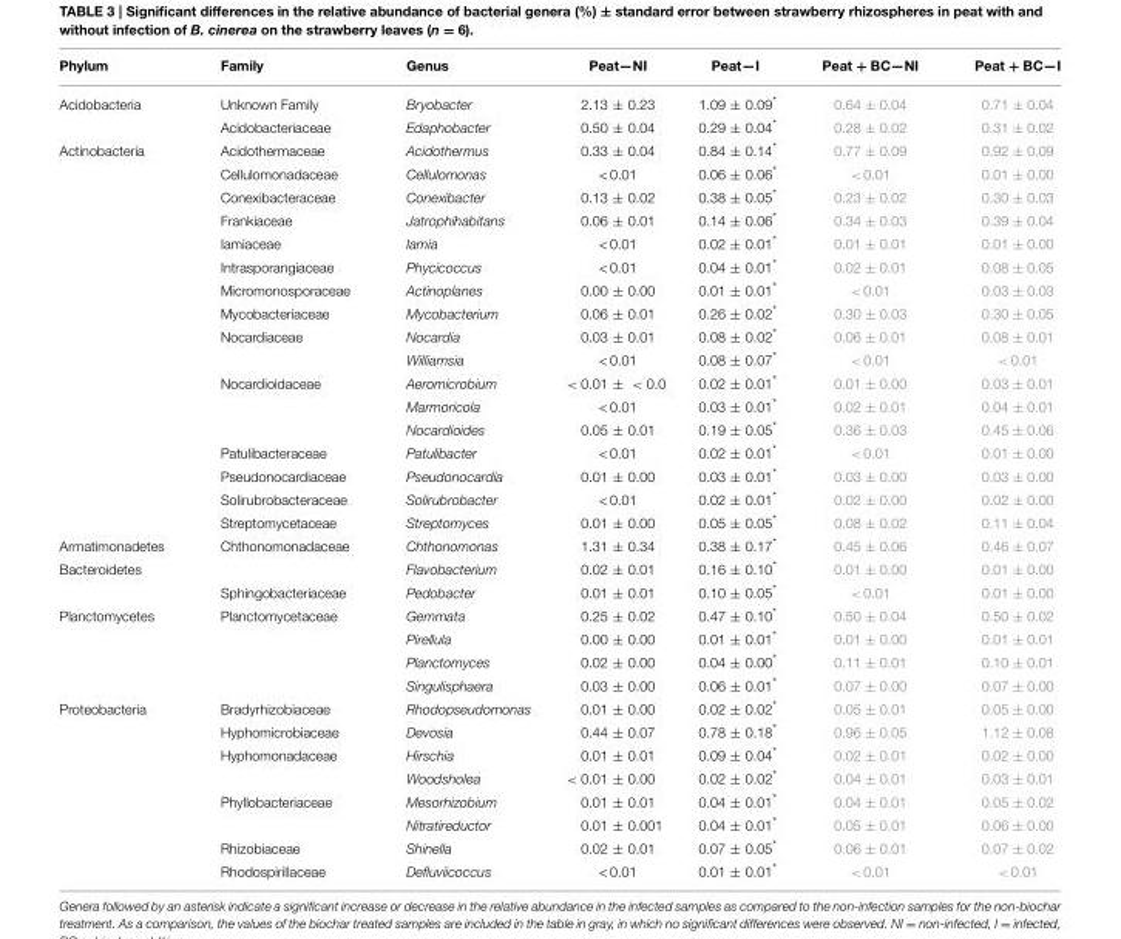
<table><thead><tr><td>Phylum</td><td>Family</td><td>Genus</td><td>Peat—NI</td><td>Peat—I</td><td>Peat + BC—NI</td><td>Peat + BC—I</td></tr></thead><tbody><tr><td rowspan="2">Acidobacteria</td><td>Unknown Family</td><td>Bryobacter</td><td>2.13 ± 0.23</td><td>1.09 ± 0.09*</td><td>0.64 ± 0.04</td><td>0.71 ± 0.04</td></tr><tr><td>Acidobacteriaceae</td><td>Edaphobacter</td><td>0.50 ± 0.04</td><td>0.29 ± 0.04*</td><td>0.28 ± 0.02</td><td>0.31 ± 0.02</td></tr><tr><td rowspan="17">Actinobacteria</td><td>Acidothermaceae</td><td>Acidothermus</td><td>0.33 ± 0.04</td><td>0.84 ± 0.14*</td><td>0.77 ± 0.09</td><td>0.92 ± 0.09</td></tr><tr><td>Cellulomonadaceae</td><td>Cellulomonas</td><td>&lt; 0.01</td><td>0.06 ± 0.06*</td><td>&lt; 0.01</td><td>0.01 ± 0.00</td></tr><tr><td>Conexibacteraceae</td><td>Conexibacter</td><td>0.13 ± 0.02</td><td>0.38 ± 0.05*</td><td>0.23 ± 0.02</td><td>0.30 ± 0.03</td></tr><tr><td>Frankiaceae</td><td>Jatrophihabitans</td><td>0.06 ± 0.01</td><td>0.14 ± 0.06*</td><td>0.34 ± 0.03</td><td>0.39 ± 0.04</td></tr><tr><td>Iamiaceae</td><td>Iamia</td><td>&lt; 0.01</td><td>0.02 ± 0.01*</td><td>0.01 ± 0.01</td><td>0.01 ± 0.00</td></tr><tr><td>Intrasporangiaceae</td><td>Phycicoccus</td><td>&lt; 0.01</td><td>0.04 ± 0.01*</td><td>0.02 ± 0.01</td><td>0.08 ± 0.05</td></tr><tr><td>Micromonosporaceae</td><td>Actinoplanes</td><td>0.00 ± 0.00</td><td>0.01 ± 0.01*</td><td>&lt; 0.01</td><td>0.03 ± 0.03</td></tr><tr><td>Mycobacteriaceae</td><td>Mycobacterium</td><td>0.06 ± 0.01</td><td>0.26 ± 0.02*</td><td>0.30 ± 0.03</td><td>0.30 ± 0.05</td></tr><tr><td>Nocardiaceae</td><td>Nocardia</td><td>0.03 ± 0.01</td><td>0.08 ± 0.02*</td><td>0.06 ± 0.01</td><td>0.08 ± 0.01</td></tr><tr><td></td><td>Williamsia</td><td>&lt; 0.01</td><td>0.08 ± 0.07*</td><td>&lt; 0.01</td><td>&lt; 0.01</td></tr><tr><td>Nocardioidaceae</td><td>Aeromicrobium</td><td>&lt; 0.01 ± &lt; 0.0</td><td>0.02 ± 0.01*</td><td>0.01 ± 0.00</td><td>0.03 ± 0.01</td></tr><tr><td></td><td>Marmoricola</td><td>&lt; 0.01</td><td>0.03 ± 0.01*</td><td>0.02 ± 0.01</td><td>0.04 ± 0.01</td></tr><tr><td></td><td>Nocardioides</td><td>0.05 ± 0.01</td><td>0.19 ± 0.05*</td><td>0.36 ± 0.03</td><td>0.45 ± 0.06</td></tr><tr><td>Patulibacteraceae</td><td>Patulibacter</td><td>&lt; 0.01</td><td>0.02 ± 0.01*</td><td>&lt; 0.01</td><td>0.01 ± 0.00</td></tr><tr><td>Pseudonocardiaceae</td><td>Pseudonocardia</td><td>0.01 ± 0.00</td><td>0.03 ± 0.01*</td><td>0.03 ± 0.00</td><td>0.03 ± 0.00</td></tr><tr><td>Solirubrobacteraceae</td><td>Solirubrobacter</td><td>&lt; 0.01</td><td>0.02 ± 0.01*</td><td>0.02 ± 0.00</td><td>0.02 ± 0.00</td></tr><tr><td>Streptomycetaceae</td><td>Streptomyces</td><td>0.01 ± 0.00</td><td>0.05 ± 0.05*</td><td>0.08 ± 0.02</td><td>0.11 ± 0.04</td></tr><tr><td>Armatimonadetes</td><td>Chthonomonadaceae</td><td>Chthonomonas</td><td>1.31 ± 0.34</td><td>0.38 ± 0.17*</td><td>0.45 ± 0.06</td><td>0.46 ± 0.07</td></tr><tr><td rowspan="2">Bacteroidetes</td><td></td><td>Flavobacterium</td><td>0.02 ± 0.01</td><td>0.16 ± 0.10*</td><td>0.01 ± 0.00</td><td>0.01 ± 0.00</td></tr><tr><td>Sphingobacteriaceae</td><td>Pedobacter</td><td>0.01 ± 0.01</td><td>0.10 ± 0.05*</td><td>&lt; 0.01</td><td>0.01 ± 0.00</td></tr><tr><td rowspan="4">Planctomycetes</td><td>Planctomycetaceae</td><td>Gemmata</td><td>0.25 ± 0.02</td><td>0.47 ± 0.10*</td><td>0.50 ± 0.04</td><td>0.50 ± 0.02</td></tr><tr><td></td><td>Pirellula</td><td>0.00 ± 0.00</td><td>0.01 ± 0.01*</td><td>0.01 ± 0.00</td><td>0.01 ± 0.01</td></tr><tr><td></td><td>Planctomyces</td><td>0.02 ± 0.00</td><td>0.04 ± 0.00*</td><td>0.11 ± 0.01</td><td>0.10 ± 0.01</td></tr><tr><td></td><td>Singulisphaera</td><td>0.03 ± 0.00</td><td>0.06 ± 0.01*</td><td>0.07 ± 0.00</td><td>0.07 ± 0.00</td></tr><tr><td rowspan="8">Proteobacteria</td><td>Bradyrhizobiaceae</td><td>Rhodopseudomonas</td><td>0.01 ± 0.00</td><td>0.02 ± 0.02*</td><td>0.05 ± 0.01</td><td>0.05 ± 0.00</td></tr><tr><td>Hyphomicrobiaceae</td><td>Devosia</td><td>0.44 ± 0.07</td><td>0.78 ± 0.18*</td><td>0.96 ± 0.05</td><td>1.12 ± 0.08</td></tr><tr><td>Hyphomonadaceae</td><td>Hirschia</td><td>0.01 ± 0.01</td><td>0.09 ± 0.04*</td><td>0.02 ± 0.01</td><td>0.02 ± 0.00</td></tr><tr><td></td><td>Woodsholea</td><td>&lt; 0.01 ± 0.00</td><td>0.02 ± 0.02*</td><td>0.04 ± 0.01</td><td>0.03 ± 0.01</td></tr><tr><td>Phyllobacteriaceae</td><td>Mesorhizobium</td><td>0.01 ± 0.01</td><td>0.04 ± 0.01*</td><td>0.04 ± 0.01</td><td>0.05 ± 0.02</td></tr><tr><td></td><td>Nitratireductor</td><td>0.01 ± 0.001</td><td>0.04 ± 0.01*</td><td>0.05 ± 0.01</td><td>0.06 ± 0.00</td></tr><tr><td>Rhizobiaceae</td><td>Shinella</td><td>0.02 ± 0.01</td><td>0.07 ± 0.05*</td><td>0.06 ± 0.01</td><td>0.07 ± 0.02</td></tr><tr><td>Rhodospirillaceae</td><td>Defluviicoccus</td><td>&lt; 0.01</td><td>0.01 ± 0.01*</td><td>&lt; 0.01</td><td>&lt; 0.01</td></tr></tbody></table>